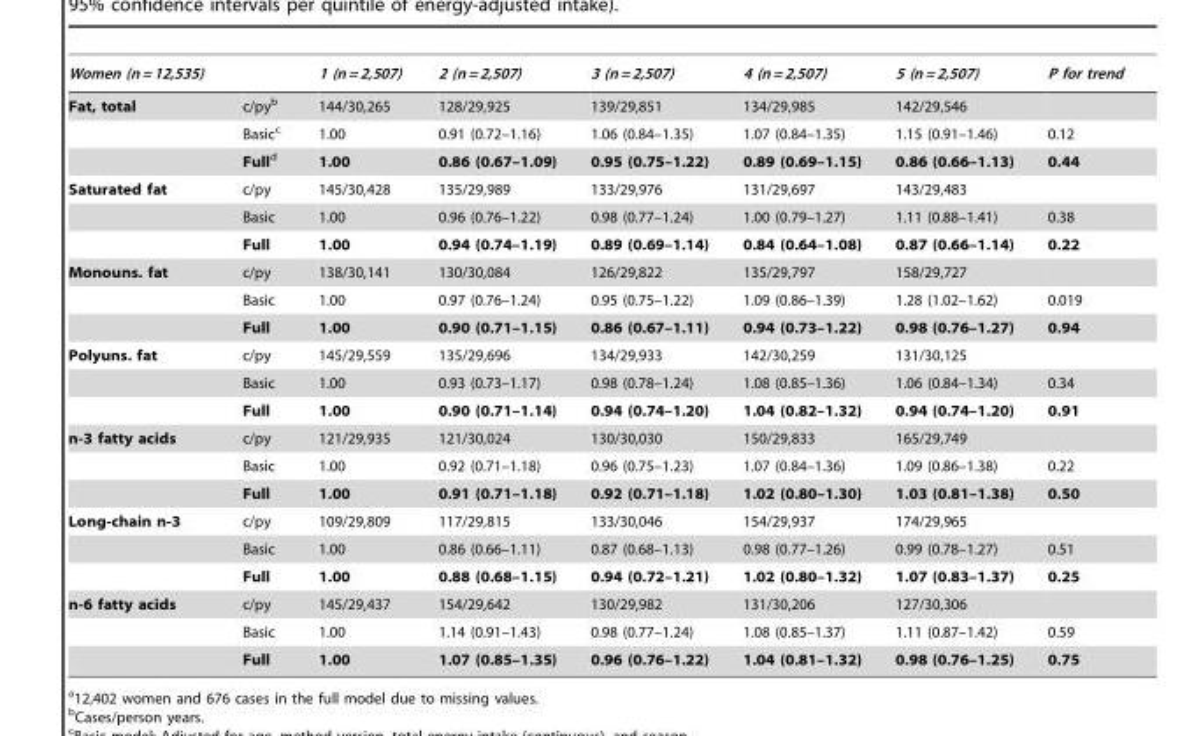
<table><thead><tr><td>Women (n = 12,535)</td><td></td><td>1 (n = 2,507)</td><td>2 (n = 2,507)</td><td>3 (n = 2,507)</td><td>4 (n = 2,507)</td><td>5 (n = 2,507)</td><td>P for trend</td></tr></thead><tbody><tr><td rowspan="3">Fat, total</td><td>c/py<sup>b</sup></td><td>144/30,265</td><td>128/29,925</td><td>139/29,851</td><td>134/29,985</td><td>142/29,546</td><td></td></tr><tr><td>Basic<sup>c</sup></td><td>1.00</td><td>0.91 (0.72–1.16)</td><td>1.06 (0.84–1.35)</td><td>1.07 (0.84–1.35)</td><td>1.15 (0.91–1.46)</td><td>0.12</td></tr><tr><td>Fulld</td><td>1.00</td><td>0.86 (0.67–1.09)</td><td>0.95 (0.75–1.22)</td><td>0.89 (0.69–1.15)</td><td>0.86 (0.66–1.13)</td><td>0.44</td></tr><tr><td rowspan="3">Saturated fat</td><td>c/py</td><td>145/30,428</td><td>135/29,989</td><td>133/29,976</td><td>131/29,697</td><td>143/29,483</td><td></td></tr><tr><td>Basic</td><td>1.00</td><td>0.96 (0.76–1.22)</td><td>0.98 (0.77–1.24)</td><td>1.00 (0.79–1.27)</td><td>1.11 (0.88–1.41)</td><td>0.38</td></tr><tr><td>Full</td><td>1.00</td><td>0.94 (0.74–1.19)</td><td>0.89 (0.69–1.14)</td><td>0.84 (0.64–1.08)</td><td>0.87 (0.66–1.14)</td><td>0.22</td></tr><tr><td rowspan="3">Monouns. fat</td><td>c/py</td><td>138/30,141</td><td>130/30,084</td><td>126/29,822</td><td>135/29,797</td><td>158/29,727</td><td></td></tr><tr><td>Basic</td><td>1.00</td><td>0.97 (0.76–1.24)</td><td>0.95 (0.75–1.22)</td><td>1.09 (0.86–1.39)</td><td>1.28 (1.02–1.62)</td><td>0.019</td></tr><tr><td>Full</td><td>1.00</td><td>0.90 (0.71–1.15)</td><td>0.86 (0.67–1.11)</td><td>0.94 (0.73–1.22)</td><td>0.98 (0.76–1.27)</td><td>0.94</td></tr><tr><td rowspan="3">Polyuns. fat</td><td>c/py</td><td>145/29,559</td><td>135/29,696</td><td>134/29,933</td><td>142/30,259</td><td>131/30,125</td><td></td></tr><tr><td>Basic</td><td>1.00</td><td>0.93 (0.73–1.17)</td><td>0.98 (0.78–1.24)</td><td>1.08 (0.85–1.36)</td><td>1.06 (0.84–1.34)</td><td>0.34</td></tr><tr><td>Full</td><td>1.00</td><td>0.90 (0.71–1.14)</td><td>0.94 (0.74–1.20)</td><td>1.04 (0.82–1.32)</td><td>0.94 (0.74–1.20)</td><td>0.91</td></tr><tr><td rowspan="3">n-3 fatty acids</td><td>c/py</td><td>121/29,935</td><td>121/30,024</td><td>130/30,030</td><td>150/29,833</td><td>165/29,749</td><td></td></tr><tr><td>Basic</td><td>1.00</td><td>0.92 (0.71–1.18)</td><td>0.96 (0.75–1.23)</td><td>1.07 (0.84–1.36)</td><td>1.09 (0.86–1.38)</td><td>0.22</td></tr><tr><td>Full</td><td>1.00</td><td>0.91 (0.71–1.18)</td><td>0.92 (0.71–1.18)</td><td>1.02 (0.80–1.30)</td><td>1.03 (0.81–1.38)</td><td>0.50</td></tr><tr><td rowspan="3">Long-chain n-3</td><td>c/py</td><td>109/29,809</td><td>117/29,815</td><td>133/30,046</td><td>154/29,937</td><td>174/29,965</td><td></td></tr><tr><td>Basic</td><td>1.00</td><td>0.86 (0.66–1.11)</td><td>0.87 (0.68–1.13)</td><td>0.98 (0.77–1.26)</td><td>0.99 (0.78–1.27)</td><td>0.51</td></tr><tr><td>Full</td><td>1.00</td><td>0.88 (0.68–1.15)</td><td>0.94 (0.72–1.21)</td><td>1.02 (0.80–1.32)</td><td>1.07 (0.83–1.37)</td><td>0.25</td></tr><tr><td rowspan="3">n-6 fatty acids</td><td>c/py</td><td>145/29,437</td><td>154/29,642</td><td>130/29,982</td><td>131/30,206</td><td>127/30,306</td><td></td></tr><tr><td>Basic</td><td>1.00</td><td>1.14 (0.91–1.43)</td><td>0.98 (0.77–1.24)</td><td>1.08 (0.85–1.37)</td><td>1.11 (0.87–1.42)</td><td>0.59</td></tr><tr><td>Full</td><td>1.00</td><td>1.07 (0.85–1.35)</td><td>0.96 (0.76–1.22)</td><td>1.04 (0.81–1.32)</td><td>0.98 (0.76–1.25)</td><td>0.75</td></tr></tbody></table>